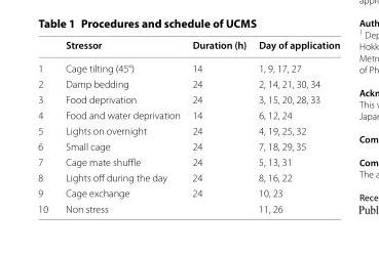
<table><thead><tr><td></td><td>Stressor</td><td>Duration (h)</td><td>Day of application</td></tr></thead><tbody><tr><td>1</td><td>Cage tilting (45°)</td><td>14</td><td>1, 9, 17, 27</td></tr><tr><td>2</td><td>Damp bedding</td><td>24</td><td>2, 14, 21, 30, 34</td></tr><tr><td>3</td><td>Food deprivation</td><td>24</td><td>3, 15, 20, 28, 33</td></tr><tr><td>4</td><td>Food and water deprivation</td><td>14</td><td>6, 12, 24</td></tr><tr><td>5</td><td>Lights on overnight</td><td>24</td><td>4, 19, 25, 32</td></tr><tr><td>6</td><td>Small cage</td><td>24</td><td>7, 18, 29, 35</td></tr><tr><td>7</td><td>Cage mate shuffle</td><td>24</td><td>5, 13, 31</td></tr><tr><td>8</td><td>Lights off during the day</td><td>24</td><td>8, 16, 22</td></tr><tr><td>9</td><td>Cage exchange</td><td>24</td><td>10, 23</td></tr><tr><td>10</td><td>Non stress</td><td></td><td>11, 26</td></tr></tbody></table>